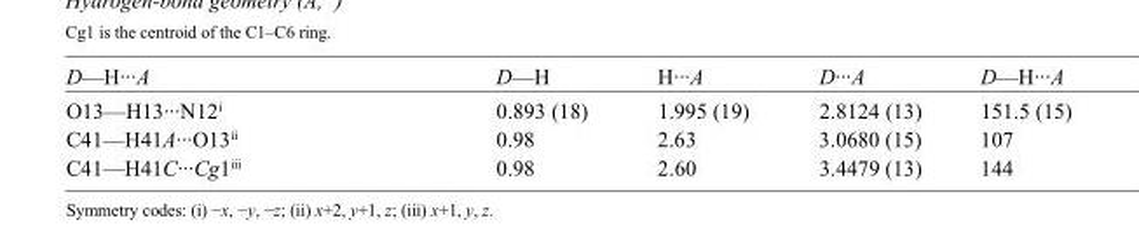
<table><tbody><tr><td>D—H···A</td><td>D—H</td><td>H···A</td><td>D···A</td><td>D—H···A</td></tr><tr><td>O13—H13···N12<sup>i</sup></td><td>0.893 (18)</td><td>1.995 (19)</td><td>2.8124 (13)</td><td>151.5 (15)</td></tr><tr><td>C41—H41A···O13<sup>ii</sup></td><td>0.98</td><td>2.63</td><td>3.0680 (15)</td><td>107</td></tr><tr><td>C41—H41C···Cg1<sup>iii</sup></td><td>0.98</td><td>2.60</td><td>3.4479 (13)</td><td>144</td></tr></tbody></table>